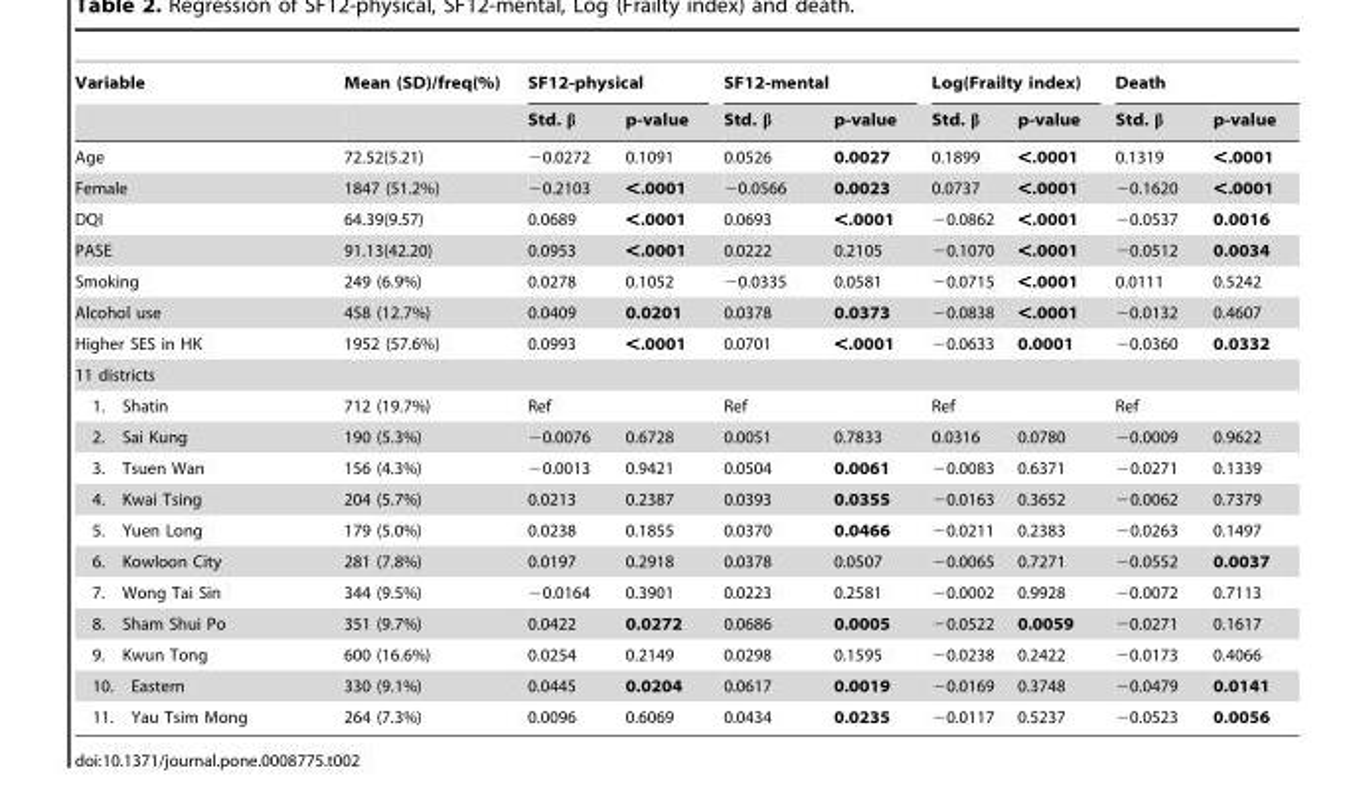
<table><thead><tr><td rowspan="2">Variable</td><td rowspan="2">Mean (SD)/freq(%)</td><td colspan="2">SF12-physical</td><td colspan="2">SF12-mental</td><td colspan="2">Log(Frailty index)</td><td colspan="2">Death</td></tr><tr><td>Std. β</td><td>p-value</td><td>Std. β</td><td>p-value</td><td>Std. β</td><td>p-value</td><td>Std. β</td><td>p-value</td></tr></thead><tbody><tr><td>Age</td><td>72.52(5.21)</td><td>−0.0272</td><td>0.1091</td><td>0.0526</td><td>0.0027</td><td>0.1899</td><td>&lt;.0001</td><td>0.1319</td><td>&lt;.0001</td></tr><tr><td>Female</td><td>1847 (51.2%)</td><td>−0.2103</td><td>&lt;.0001</td><td>−0.0566</td><td>0.0023</td><td>0.0737</td><td>&lt;.0001</td><td>−0.1620</td><td>&lt;.0001</td></tr><tr><td>DQI</td><td>64.39(9.57)</td><td>0.0689</td><td>&lt;.0001</td><td>0.0693</td><td>&lt;.0001</td><td>−0.0862</td><td>&lt;.0001</td><td>−0.0537</td><td>0.0016</td></tr><tr><td>PASE</td><td>91.13(42.20)</td><td>0.0953</td><td>&lt;.0001</td><td>0.0222</td><td>0.2105</td><td>−0.1070</td><td>&lt;.0001</td><td>−0.0512</td><td>0.0034</td></tr><tr><td>Smoking</td><td>249 (6.9%)</td><td>0.0278</td><td>0.1052</td><td>−0.0335</td><td>0.0581</td><td>−0.0715</td><td>&lt;.0001</td><td>0.0111</td><td>0.5242</td></tr><tr><td>Alcohol use</td><td>458 (12.7%)</td><td>0.0409</td><td>0.0201</td><td>0.0378</td><td>0.0373</td><td>−0.0838</td><td>&lt;.0001</td><td>−0.0132</td><td>0.4607</td></tr><tr><td>Higher SES in HK</td><td>1952 (57.6%)</td><td>0.0993</td><td>&lt;.0001</td><td>0.0701</td><td>&lt;.0001</td><td>−0.0633</td><td>0.0001</td><td>−0.0360</td><td>0.0332</td></tr><tr><td colspan="10">11 districts</td></tr><tr><td>1. Shatin</td><td>712 (19.7%)</td><td>Ref</td><td></td><td>Ref</td><td></td><td>Ref</td><td></td><td>Ref</td><td></td></tr><tr><td>2. Sai Kung</td><td>190 (5.3%)</td><td>−0.0076</td><td>0.6728</td><td>0.0051</td><td>0.7833</td><td>0.0316</td><td>0.0780</td><td>−0.0009</td><td>0.9622</td></tr><tr><td>3. Tsuen Wan</td><td>156 (4.3%)</td><td>−0.0013</td><td>0.9421</td><td>0.0504</td><td>0.0061</td><td>−0.0083</td><td>0.6371</td><td>−0.0271</td><td>0.1339</td></tr><tr><td>4. Kwai Tsing</td><td>204 (5.7%)</td><td>0.0213</td><td>0.2387</td><td>0.0393</td><td>0.0355</td><td>−0.0163</td><td>0.3652</td><td>−0.0062</td><td>0.7379</td></tr><tr><td>5. Yuen Long</td><td>179 (5.0%)</td><td>0.0238</td><td>0.1855</td><td>0.0370</td><td>0.0466</td><td>−0.0211</td><td>0.2383</td><td>−0.0263</td><td>0.1497</td></tr><tr><td>6. Kowloon City</td><td>281 (7.8%)</td><td>0.0197</td><td>0.2918</td><td>0.0378</td><td>0.0507</td><td>−0.0065</td><td>0.7271</td><td>−0.0552</td><td>0.0037</td></tr><tr><td>7. Wong Tai Sin</td><td>344 (9.5%)</td><td>−0.0164</td><td>0.3901</td><td>0.0223</td><td>0.2581</td><td>−0.0002</td><td>0.9928</td><td>−0.0072</td><td>0.7113</td></tr><tr><td>8. Sham Shui Po</td><td>351 (9.7%)</td><td>0.0422</td><td>0.0272</td><td>0.0686</td><td>0.0005</td><td>−0.0522</td><td>0.0059</td><td>−0.0271</td><td>0.1617</td></tr><tr><td>9. Kwun Tong</td><td>600 (16.6%)</td><td>0.0254</td><td>0.2149</td><td>0.0298</td><td>0.1595</td><td>−0.0238</td><td>0.2422</td><td>−0.0173</td><td>0.4066</td></tr><tr><td>10. Eastern</td><td>330 (9.1%)</td><td>0.0445</td><td>0.0204</td><td>0.0617</td><td>0.0019</td><td>−0.0169</td><td>0.3748</td><td>−0.0479</td><td>0.0141</td></tr><tr><td>11. Yau Tsim Mong</td><td>264 (7.3%)</td><td>0.0096</td><td>0.6069</td><td>0.0434</td><td>0.0235</td><td>−0.0117</td><td>0.5237</td><td>−0.0523</td><td>0.0056</td></tr></tbody></table>